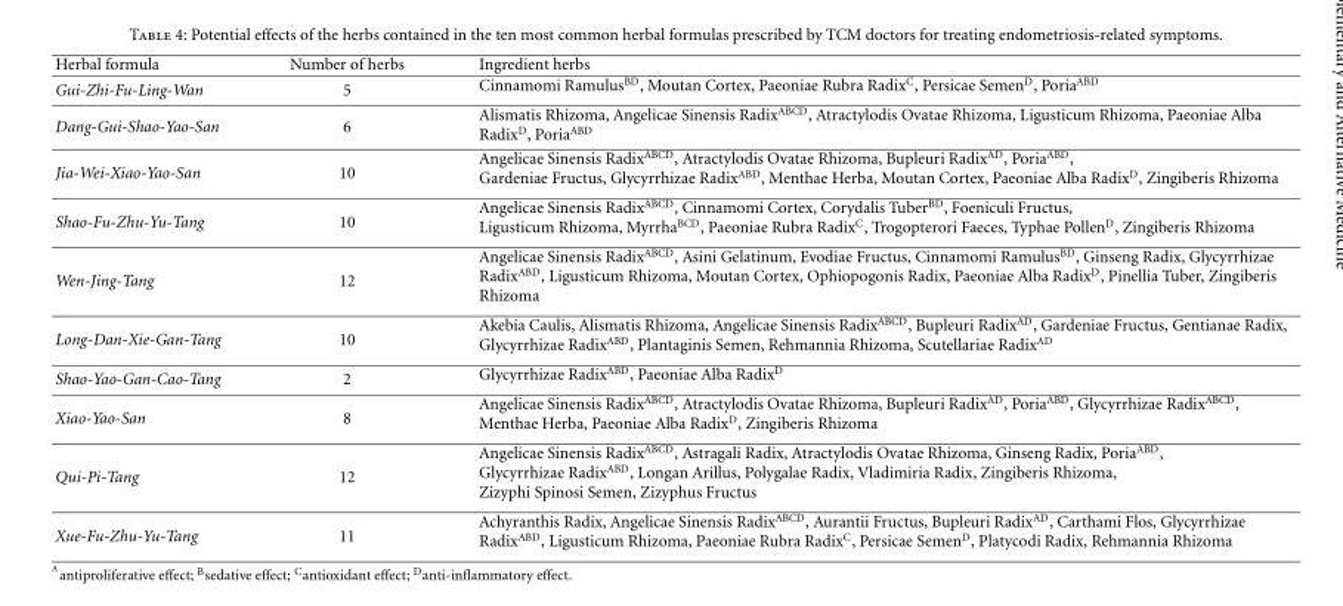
<table><thead><tr><td>Herbal formula</td><td>Number of herbs</td><td>Ingredient herbs</td></tr></thead><tbody><tr><td>Gui-Zhi-Fu-Ling-Wan</td><td>5</td><td>Cinnamomi RamulusBD, Moutan Cortex, Paeoniae Rubra RadixC, Persicae SemenD, PoriaABD</td></tr><tr><td>Dang-Gui-Shao-Yao-San</td><td>6</td><td>Alismatis Rhizoma, Angelicae Sinensis RadixABCD, Atractylodis Ovatae Rhizoma, Ligusticum Rhizoma, Paeoniae Alba RadixD, PoriaABD</td></tr><tr><td>Jia-Wei-Xiao-Yao-San</td><td>10</td><td>Angelicae Sinensis RadixABCD, Atractylodis Ovatae Rhizoma, Bupleuri RadixAD, PoriaABD, Gardeniae Fructus, Glycyrrhizae RadixABD, Menthae Herba, Moutan Cortex, Paeoniae Alba RadixD, Zingiberis Rhizoma</td></tr><tr><td>Shao-Fu-Zhu-Yu-Tang</td><td>10</td><td>Angelicae Sinensis RadixABCD, Cinnamomi Cortex, Corydalis TuberBD, Foeniculi Fructus, Ligusticum Rhizoma, MyrrhaBCD, Paeoniae Rubra RadixC, Trogopterori Faeces, Typhae PollenD, Zingiberis Rhizoma</td></tr><tr><td>Wen-Jing-Tang</td><td>12</td><td>Angelicae Sinensis RadixABCD, Asini Gelatinum, Evodiae Fructus, Cinnamomi RamulusBD, Ginseng Radix, Glycyrrhizae RadixABD, Ligusticum Rhizoma, Moutan Cortex, Ophiopogonis Radix, Paeoniae Alba RadixD, Pinellia Tuber, Zingiberis Rhizoma</td></tr><tr><td>Long-Dan-Xie-Gan-Tang</td><td>10</td><td>Akebia Caulis, Alismatis Rhizoma, Angelicae Sinensis RadixABCD, Bupleuri RadixAD, Gardeniae Fructus, Gentianae Radix, Glycyrrhizae RadixABD, Plantaginis Semen, Rehmannia Rhizoma, Scutellariae RadixAD</td></tr><tr><td>Shao-Yao-Gan-Cao-Tang</td><td>2</td><td>Glycyrrhizae RadixABD, Paeoniae Alba RadixD</td></tr><tr><td>Xiao-Yao-San</td><td>8</td><td>Angelicae Sinensis RadixABCD, Atractylodis Ovatae Rhizoma, Bupleuri RadixAD, PoriaABD, Glycyrrhizae RadixABCD, Menthae Herba, Paeoniae Alba RadixD, Zingiberis Rhizoma</td></tr><tr><td>Qui-Pi-Tang</td><td>12</td><td>Angelicae Sinensis RadixABCD, Astragali Radix, Atractylodis Ovatae Rhizoma, Ginseng Radix, PoriaABD, Glycyrrhizae RadixABD, Longan Arillus, Polygalae Radix, Vladimiria Radix, Zingiberis Rhizoma, Zizyphi Spinosi Semen, Zizyphus Fructus</td></tr><tr><td>Xue-Fu-Zhu-Yu-Tang</td><td>11</td><td>Achyranthis Radix, Angelicae Sinensis RadixABCD, Aurantii Fructus, Bupleuri RadixAD, Carthami Flos, Glycyrrhizae RadixABD, Ligusticum Rhizoma, Paeoniae Rubra RadixC, Persicae SemenD, Platycodi Radix, Rehmannia Rhizoma</td></tr></tbody></table>